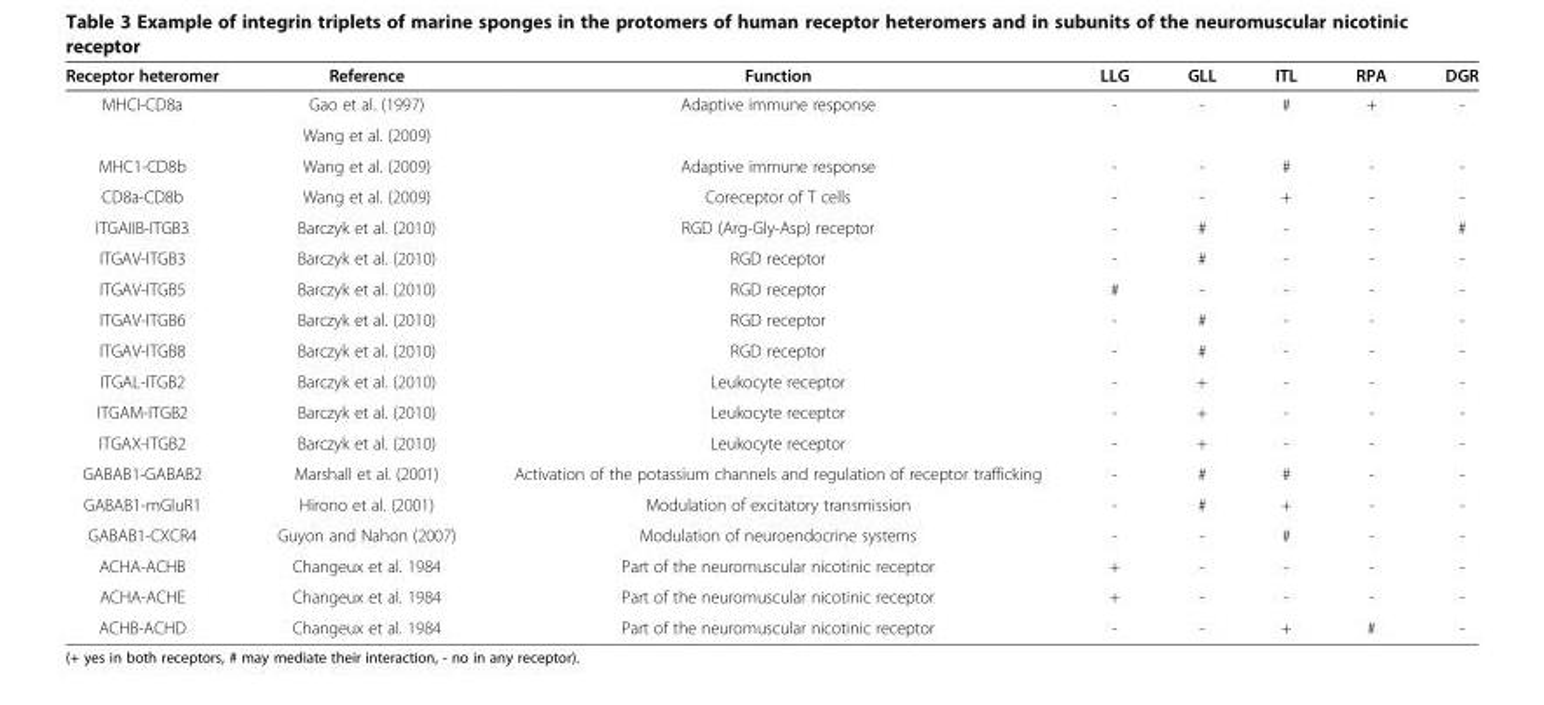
<table><thead><tr><td>Receptor heteromer</td><td>Reference</td><td>Function</td><td>LLG</td><td>GLL</td><td>ITL</td><td>RPA</td><td>DGR</td></tr></thead><tbody><tr><td rowspan="2">MHCI-CD8a</td><td>Gao et al. (1997)</td><td rowspan="2">Adaptive immune response</td><td rowspan="2">-</td><td rowspan="2">-</td><td rowspan="2">#</td><td rowspan="2">+</td><td rowspan="2">-</td></tr><tr><td>Wang et al. (2009)</td></tr><tr><td>MHC1-CD8b</td><td>Wang et al. (2009)</td><td>Adaptive immune response</td><td>-</td><td>-</td><td>#</td><td>-</td><td>-</td></tr><tr><td>CD8a-CD8b</td><td>Wang et al. (2009)</td><td>Coreceptor of T cells</td><td>-</td><td>-</td><td>+</td><td>-</td><td>-</td></tr><tr><td>ITGAIIB-ITGB3</td><td>Barczyk et al. (2010)</td><td>RGD (Arg-Gly-Asp) receptor</td><td>-</td><td>#</td><td>-</td><td>-</td><td>#</td></tr><tr><td>ITGAV-ITGB3</td><td>Barczyk et al. (2010)</td><td>RGD receptor</td><td>-</td><td>#</td><td>-</td><td>-</td><td>-</td></tr><tr><td>ITGAV-ITGB5</td><td>Barczyk et al. (2010)</td><td>RGD receptor</td><td>#</td><td>-</td><td>-</td><td>-</td><td>-</td></tr><tr><td>ITGAV-ITGB6</td><td>Barczyk et al. (2010)</td><td>RGD receptor</td><td>-</td><td>#</td><td>-</td><td>-</td><td>-</td></tr><tr><td>ITGAV-ITGB8</td><td>Barczyk et al. (2010)</td><td>RGD receptor</td><td>-</td><td>#</td><td>-</td><td>-</td><td>-</td></tr><tr><td>ITGAL-ITGB2</td><td>Barczyk et al. (2010)</td><td>Leukocyte receptor</td><td>-</td><td>+</td><td>-</td><td>-</td><td>-</td></tr><tr><td>ITGAM-ITGB2</td><td>Barczyk et al. (2010)</td><td>Leukocyte receptor</td><td>-</td><td>+</td><td>-</td><td>-</td><td>-</td></tr><tr><td>ITGAX-ITGB2</td><td>Barczyk et al. (2010)</td><td>Leukocyte receptor</td><td>-</td><td>+</td><td>-</td><td>-</td><td>-</td></tr><tr><td>GABAB1-GABAB2</td><td>Marshall et al. (2001)</td><td>Activation of the potassium channels and regulation of receptor trafficking</td><td>-</td><td>#</td><td>#</td><td>-</td><td>-</td></tr><tr><td>GABAB1-mGluR1</td><td>Hirono et al. (2001)</td><td>Modulation of excitatory transmission</td><td>-</td><td>#</td><td>+</td><td>-</td><td>-</td></tr><tr><td>GABAB1-CXCR4</td><td>Guyon and Nahon (2007)</td><td>Modulation of neuroendocrine systems</td><td>-</td><td>-</td><td>#</td><td>-</td><td>-</td></tr><tr><td>ACHA-ACHB</td><td>Changeux et al. 1984</td><td>Part of the neuromuscular nicotinic receptor</td><td>+</td><td>-</td><td>-</td><td>-</td><td>-</td></tr><tr><td>ACHA-ACHE</td><td>Changeux et al. 1984</td><td>Part of the neuromuscular nicotinic receptor</td><td>+</td><td>-</td><td>-</td><td>-</td><td>-</td></tr><tr><td>ACHB-ACHD</td><td>Changeux et al. 1984</td><td>Part of the neuromuscular nicotinic receptor</td><td>-</td><td>-</td><td>+</td><td>#</td><td>-</td></tr></tbody></table>